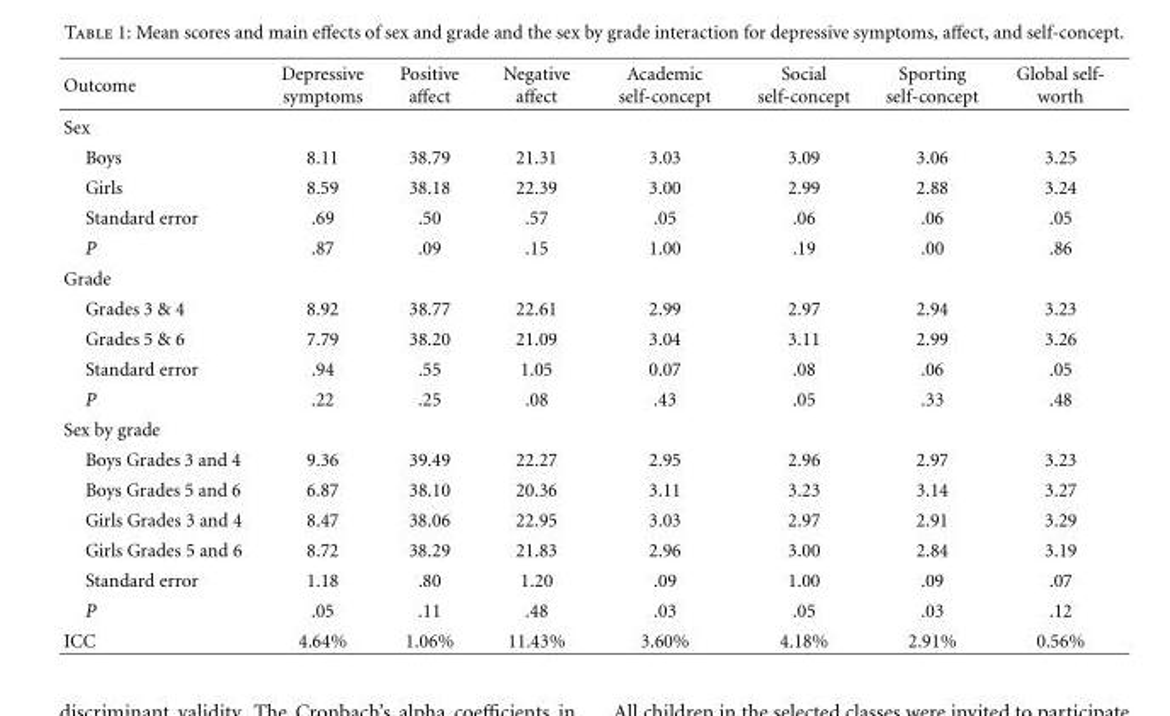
<table><thead><tr><td>Outcome</td><td>Depressive symptoms</td><td>Positive affect</td><td>Negative affect</td><td>Academic self-concept</td><td>Social self-concept</td><td>Sporting self-concept</td><td>Global self- worth</td></tr></thead><tbody><tr><td colspan="8">Sex</td></tr><tr><td>Boys</td><td>8.11</td><td>38.79</td><td>21.31</td><td>3.03</td><td>3.09</td><td>3.06</td><td>3.25</td></tr><tr><td>Girls</td><td>8.59</td><td>38.18</td><td>22.39</td><td>3.00</td><td>2.99</td><td>2.88</td><td>3.24</td></tr><tr><td>Standard error</td><td>.69</td><td>.50</td><td>.57</td><td>.05</td><td>.06</td><td>.06</td><td>.05</td></tr><tr><td>P</td><td>.87</td><td>.09</td><td>.15</td><td>1.00</td><td>.19</td><td>.00</td><td>.86</td></tr><tr><td colspan="8">Grade</td></tr><tr><td>Grades 3 &amp; 4</td><td>8.92</td><td>38.77</td><td>22.61</td><td>2.99</td><td>2.97</td><td>2.94</td><td>3.23</td></tr><tr><td>Grades 5 &amp; 6</td><td>7.79</td><td>38.20</td><td>21.09</td><td>3.04</td><td>3.11</td><td>2.99</td><td>3.26</td></tr><tr><td>Standard error</td><td>.94</td><td>.55</td><td>1.05</td><td>0.07</td><td>.08</td><td>.06</td><td>.05</td></tr><tr><td>P</td><td>.22</td><td>.25</td><td>.08</td><td>.43</td><td>.05</td><td>.33</td><td>.48</td></tr><tr><td colspan="8">Sex by grade</td></tr><tr><td>Boys Grades 3 and 4</td><td>9.36</td><td>39.49</td><td>22.27</td><td>2.95</td><td>2.96</td><td>2.97</td><td>3.23</td></tr><tr><td>Boys Grades 5 and 6</td><td>6.87</td><td>38.10</td><td>20.36</td><td>3.11</td><td>3.23</td><td>3.14</td><td>3.27</td></tr><tr><td>Girls Grades 3 and 4</td><td>8.47</td><td>38.06</td><td>22.95</td><td>3.03</td><td>2.97</td><td>2.91</td><td>3.29</td></tr><tr><td>Girls Grades 5 and 6</td><td>8.72</td><td>38.29</td><td>21.83</td><td>2.96</td><td>3.00</td><td>2.84</td><td>3.19</td></tr><tr><td>Standard error</td><td>1.18</td><td>.80</td><td>1.20</td><td>.09</td><td>1.00</td><td>.09</td><td>.07</td></tr><tr><td>P</td><td>.05</td><td>.11</td><td>.48</td><td>.03</td><td>.05</td><td>.03</td><td>.12</td></tr><tr><td>ICC</td><td>4.64%</td><td>1.06%</td><td>11.43%</td><td>3.60%</td><td>4.18%</td><td>2.91%</td><td>0.56%</td></tr></tbody></table>